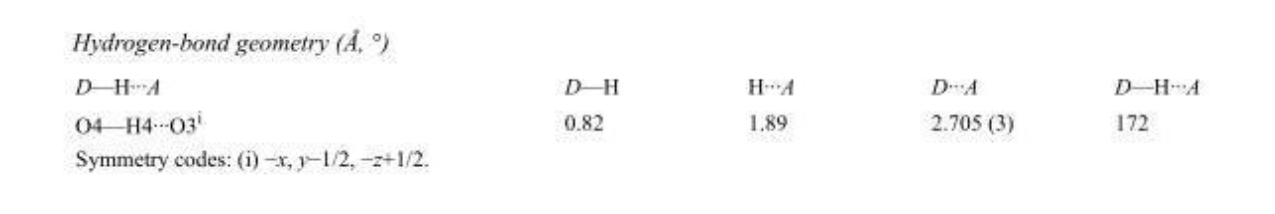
<table><tbody><tr><td>D—H···A</td><td>D—H</td><td>H···A</td><td>D···A</td><td>D—H···A</td></tr><tr><td>O4—H4···O3<sup>i</sup></td><td>0.82</td><td>1.89</td><td>2.705 (3)</td><td>172</td></tr></tbody></table>